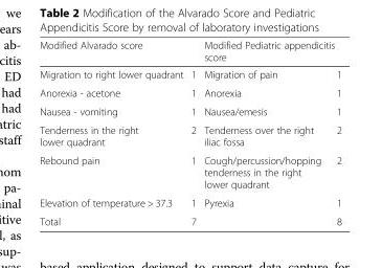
<table><thead><tr><td colspan="2">Modified Alvarado score</td><td colspan="2">Modified Pediatric appendicitis score</td></tr><tr><td>Migration to right lower quadrant</td><td>1</td><td>Migration of pain</td><td>1</td></tr></thead><tbody><tr><td>Anorexia - acetone</td><td>1</td><td>Anorexia</td><td>1</td></tr><tr><td>Nausea - vomiting</td><td>1</td><td>Nausea/emesis</td><td>1</td></tr><tr><td>Tenderness in the right lower quadrant</td><td>2</td><td>Tenderness over the right iliac fossa</td><td>2</td></tr><tr><td>Rebound pain</td><td>1</td><td>Cough/percussion/hopping tenderness in the right lower quadrant</td><td>2</td></tr><tr><td>Elevation of temperature &gt; 37.3</td><td>1</td><td>Pyrexia</td><td>1</td></tr><tr><td>Total</td><td>7</td><td></td><td>8</td></tr></tbody></table>